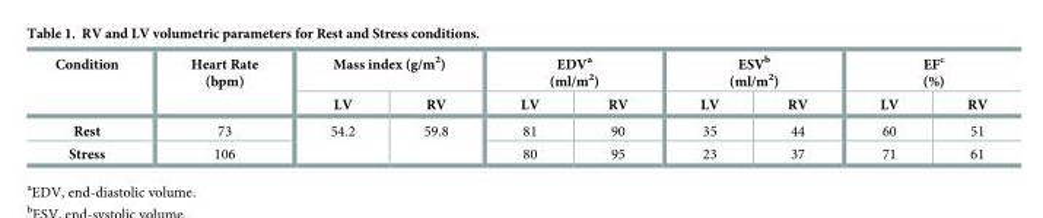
<table><thead><tr><td rowspan="2">Condition</td><td rowspan="2">Heart Rate (bpm)</td><td colspan="2">Mass index (g/m<sup>2</sup>)</td><td colspan="2">EDV<sup>a</sup> (ml/m<sup>2</sup>)</td><td colspan="2">ESV<sup>b</sup> (ml/m<sup>2</sup>)</td><td colspan="2">EF<sup>c</sup> (%)</td></tr><tr><td>LV</td><td>RV</td><td>LV</td><td>RV</td><td>LV</td><td>RV</td><td>LV</td><td>RV</td></tr></thead><tbody><tr><td>Rest</td><td>73</td><td rowspan="2">54.2</td><td rowspan="2">59.8</td><td>81</td><td>90</td><td>35</td><td>44</td><td>60</td><td>51</td></tr><tr><td>Stress</td><td>106</td><td>80</td><td>95</td><td>23</td><td>37</td><td>71</td><td>61</td></tr></tbody></table>